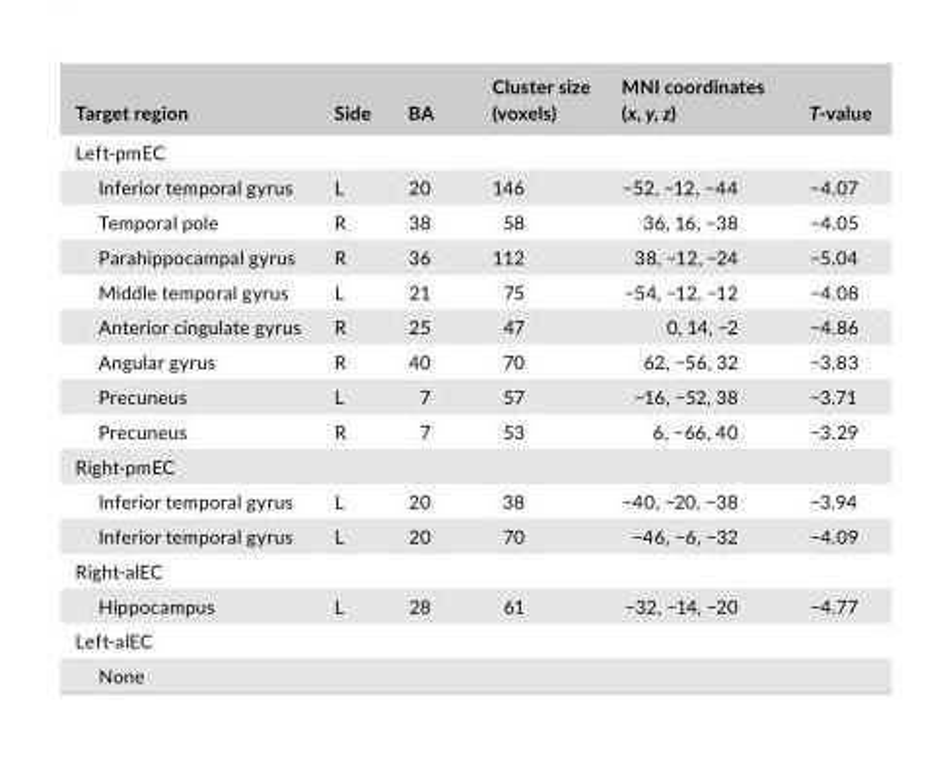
<table><thead><tr><td>Target region</td><td>Side</td><td>BA</td><td>Cluster size (voxels)</td><td>MNI coordinates (x, y, z)</td><td>T- value</td></tr></thead><tbody><tr><td colspan="6">Left- pmEC</td></tr><tr><td>Inferior temporal gyrus</td><td>L</td><td>20</td><td>146</td><td>−52, −12, −44</td><td>−4.07</td></tr><tr><td>Temporal pole</td><td>R</td><td>38</td><td>58</td><td>36, 16, −38</td><td>−4.05</td></tr><tr><td>Parahippocampal gyrus</td><td>R</td><td>36</td><td>112</td><td>38, −12, −24</td><td>−5.04</td></tr><tr><td>Middle temporal gyrus</td><td>L</td><td>21</td><td>75</td><td>−54, −12, −12</td><td>−4.08</td></tr><tr><td>Anterior cingulate gyrus</td><td>R</td><td>25</td><td>47</td><td>0, 14, −2</td><td>−4.86</td></tr><tr><td>Angular gyrus</td><td>R</td><td>40</td><td>70</td><td>62, −56, 32</td><td>−3.83</td></tr><tr><td>Precuneus</td><td>L</td><td>7</td><td>57</td><td>−16, −52, 38</td><td>−3.71</td></tr><tr><td>Precuneus</td><td>R</td><td>7</td><td>53</td><td>6, −66, 40</td><td>−3.29</td></tr><tr><td colspan="6">Right- pmEC</td></tr><tr><td>Inferior temporal gyrus</td><td>L</td><td>20</td><td>38</td><td>−40, −20, −38</td><td>−3.94</td></tr><tr><td>Inferior temporal gyrus</td><td>L</td><td>20</td><td>70</td><td>−46, −6, −32</td><td>−4.09</td></tr><tr><td colspan="6">Right- alEC</td></tr><tr><td>Hippocampus</td><td>L</td><td>28</td><td>61</td><td>−32, −14, −20</td><td>−4.77</td></tr><tr><td colspan="6">Left- alEC</td></tr><tr><td>None</td><td></td><td></td><td></td><td></td><td></td></tr></tbody></table>